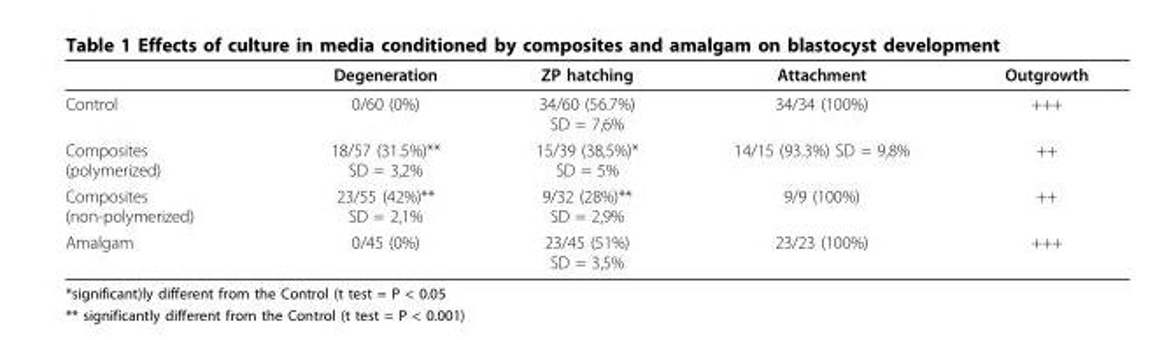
<table><thead><tr><td></td><td>Degeneration</td><td>ZP hatching</td><td>Attachment</td><td>Outgrowth</td></tr></thead><tbody><tr><td>Control</td><td>0/60 (0%)</td><td>34/60 (56.7%) SD = 7,6%</td><td>34/34 (100%)</td><td>+++</td></tr><tr><td>Composites (polymerized)</td><td>18/57 (31.5%)** SD = 3,2%</td><td>15/39 (38,5%)* SD = 5%</td><td>14/15 (93.3%) SD = 9,8%</td><td>++</td></tr><tr><td>Composites (non-polymerized)</td><td>23/55 (42%)** SD = 2,1%</td><td>9/32 (28%)** SD = 2,9%</td><td>9/9 (100%)</td><td>++</td></tr><tr><td>Amalgam</td><td>0/45 (0%)</td><td>23/45 (51%) SD = 3,5%</td><td>23/23 (100%)</td><td>+++</td></tr></tbody></table>